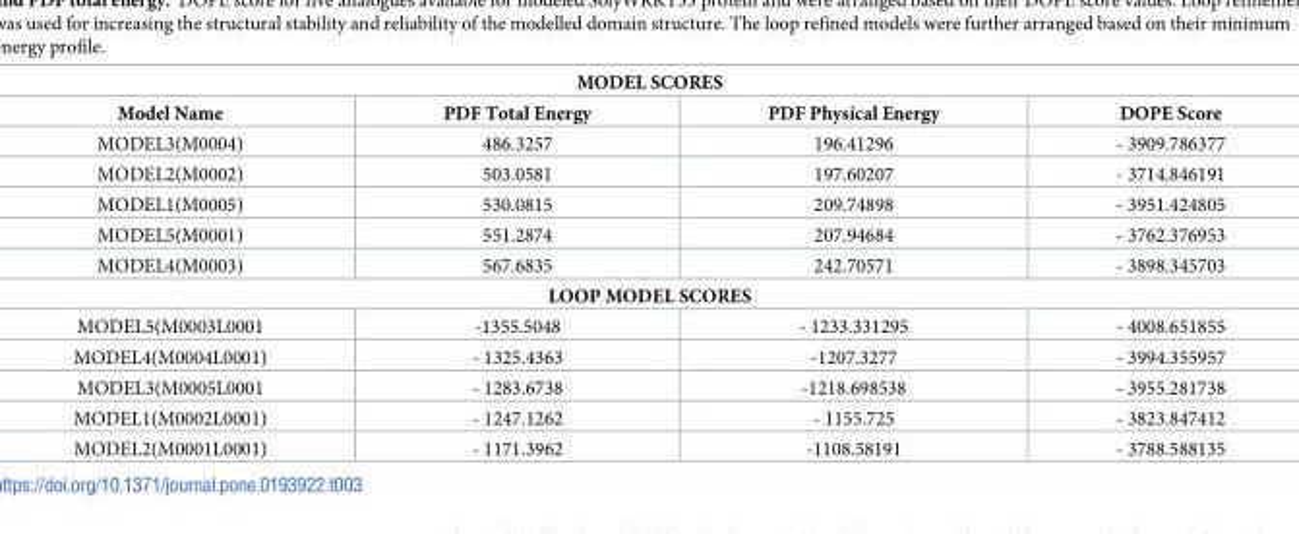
<table><thead><tr><td colspan="4">MODEL SCORES</td></tr><tr><td>Model Name</td><td>PDF Total Energy</td><td>PDF Physical Energy</td><td>DOPE Score</td></tr></thead><tbody><tr><td>MODEL3(M0004)</td><td>486.3257</td><td>196.41296</td><td>- 3909.786377</td></tr><tr><td>MODEL2(M0002)</td><td>503.0581</td><td>197.60207</td><td>- 3714.846191</td></tr><tr><td>MODEL1(M0005)</td><td>530.0815</td><td>209.74898</td><td>- 3951.424805</td></tr><tr><td>MODEL5(M0001)</td><td>551.2874</td><td>207.94684</td><td>- 3762.376953</td></tr><tr><td>MODEL4(M0003)</td><td>567.6835</td><td>242.70571</td><td>- 3898.345703</td></tr><tr><td colspan="4">LOOP MODEL SCORES</td></tr><tr><td>MODEL5(M0003L0001</td><td>-1355.5048</td><td>- 1233.331295</td><td>- 4008.651855</td></tr><tr><td>MODEL4(M0004L0001)</td><td>- 1325.4363</td><td>-1207.3277</td><td>- 3994.355957</td></tr><tr><td>MODEL3(M0005L0001</td><td>- 1283.6738</td><td>-1218.698538</td><td>- 3955.281738</td></tr><tr><td>MODEL1(M0002L0001)</td><td>- 1247.1262</td><td>- 1155.725</td><td>- 3823.847412</td></tr><tr><td>MODEL2(M0001L0001)</td><td>- 1171.3962</td><td>-1108.58191</td><td>- 3788.588135</td></tr></tbody></table>